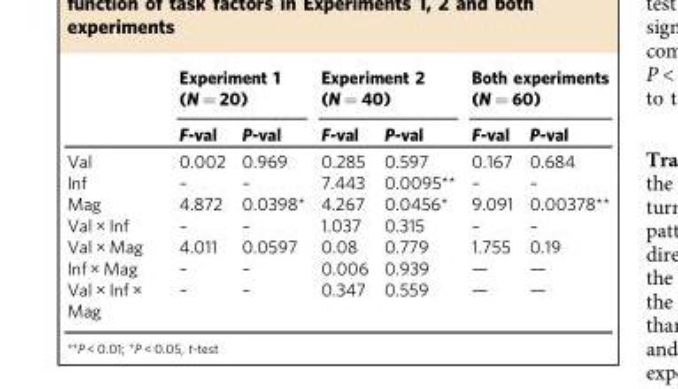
<table><thead><tr><td rowspan="2"></td><td colspan="2">Experiment 1 (N = 20)</td><td colspan="2">Experiment 2 (N = 40)</td><td colspan="2">Both experiments (N = 60)</td></tr><tr><td>F-val</td><td>P-val</td><td>F-val</td><td>P-val</td><td>F-val</td><td>P-val</td></tr></thead><tbody><tr><td>Val</td><td>0.002</td><td>0.969</td><td>0.285</td><td>0.597</td><td>0.167</td><td>0.684</td></tr><tr><td>Inf</td><td>–</td><td>–</td><td>7.443</td><td>0.0095**</td><td>–</td><td>–</td></tr><tr><td>Mag</td><td>4.872</td><td>0.0398*</td><td>4.267</td><td>0.0456*</td><td>9.091</td><td>0.00378**</td></tr><tr><td>Val × Inf</td><td>–</td><td>–</td><td>1.037</td><td>0.315</td><td>–</td><td>–</td></tr><tr><td>Val × Mag</td><td>4.011</td><td>0.0597</td><td>0.08</td><td>0.779</td><td>1.755</td><td>0.19</td></tr><tr><td>Inf × Mag</td><td>–</td><td>–</td><td>0.006</td><td>0.939</td><td>—</td><td>—</td></tr><tr><td>Val × Inf × Mag</td><td>–</td><td>–</td><td>0.347</td><td>0.559</td><td>—</td><td>—</td></tr></tbody></table>